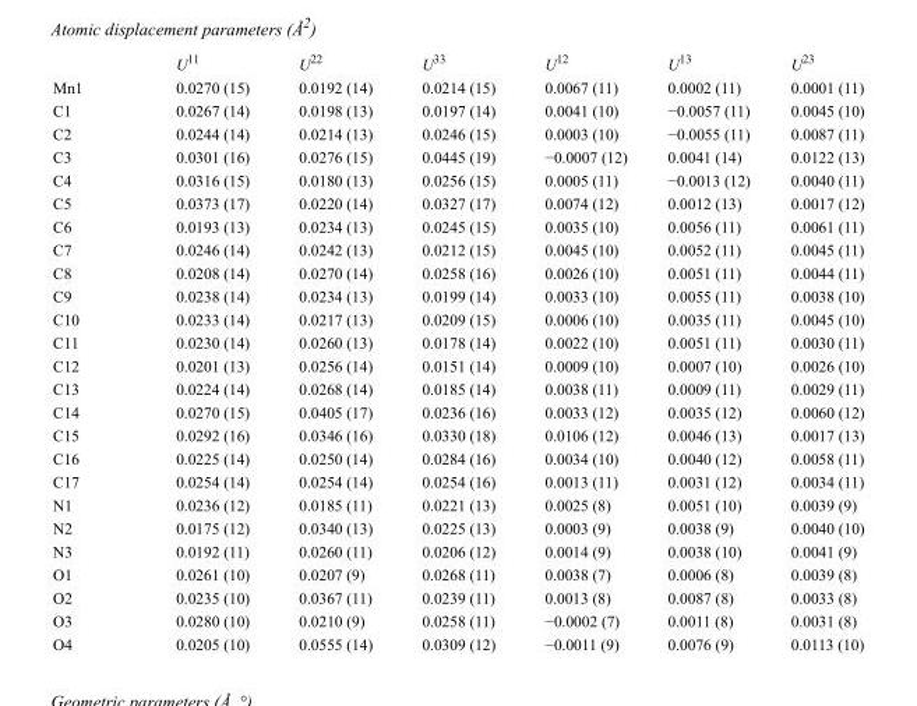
<table><thead><tr><td></td><td>U11</td><td>U22</td><td>U33</td><td>U12</td><td>U13</td><td>U23</td></tr></thead><tbody><tr><td>Mn1</td><td>0.0270 (15)</td><td>0.0192 (14)</td><td>0.0214 (15)</td><td>0.0067 (11)</td><td>0.0002 (11)</td><td>0.0001 (11)</td></tr><tr><td>C1</td><td>0.0267 (14)</td><td>0.0198 (13)</td><td>0.0197 (14)</td><td>0.0041 (10)</td><td>−0.0057 (11)</td><td>0.0045 (10)</td></tr><tr><td>C2</td><td>0.0244 (14)</td><td>0.0214 (13)</td><td>0.0246 (15)</td><td>0.0003 (10)</td><td>−0.0055 (11)</td><td>0.0087 (11)</td></tr><tr><td>C3</td><td>0.0301 (16)</td><td>0.0276 (15)</td><td>0.0445 (19)</td><td>−0.0007 (12)</td><td>0.0041 (14)</td><td>0.0122 (13)</td></tr><tr><td>C4</td><td>0.0316 (15)</td><td>0.0180 (13)</td><td>0.0256 (15)</td><td>0.0005 (11)</td><td>−0.0013 (12)</td><td>0.0040 (11)</td></tr><tr><td>C5</td><td>0.0373 (17)</td><td>0.0220 (14)</td><td>0.0327 (17)</td><td>0.0074 (12)</td><td>0.0012 (13)</td><td>0.0017 (12)</td></tr><tr><td>C6</td><td>0.0193 (13)</td><td>0.0234 (13)</td><td>0.0245 (15)</td><td>0.0035 (10)</td><td>0.0056 (11)</td><td>0.0061 (11)</td></tr><tr><td>C7</td><td>0.0246 (14)</td><td>0.0242 (13)</td><td>0.0212 (15)</td><td>0.0045 (10)</td><td>0.0052 (11)</td><td>0.0045 (11)</td></tr><tr><td>C8</td><td>0.0208 (14)</td><td>0.0270 (14)</td><td>0.0258 (16)</td><td>0.0026 (10)</td><td>0.0051 (11)</td><td>0.0044 (11)</td></tr><tr><td>C9</td><td>0.0238 (14)</td><td>0.0234 (13)</td><td>0.0199 (14)</td><td>0.0033 (10)</td><td>0.0055 (11)</td><td>0.0038 (10)</td></tr><tr><td>C10</td><td>0.0233 (14)</td><td>0.0217 (13)</td><td>0.0209 (15)</td><td>0.0006 (10)</td><td>0.0035 (11)</td><td>0.0045 (10)</td></tr><tr><td>C11</td><td>0.0230 (14)</td><td>0.0260 (13)</td><td>0.0178 (14)</td><td>0.0022 (10)</td><td>0.0051 (11)</td><td>0.0030 (11)</td></tr><tr><td>C12</td><td>0.0201 (13)</td><td>0.0256 (14)</td><td>0.0151 (14)</td><td>0.0009 (10)</td><td>0.0007 (10)</td><td>0.0026 (10)</td></tr><tr><td>C13</td><td>0.0224 (14)</td><td>0.0268 (14)</td><td>0.0185 (14)</td><td>0.0038 (11)</td><td>0.0009 (11)</td><td>0.0029 (11)</td></tr><tr><td>C14</td><td>0.0270 (15)</td><td>0.0405 (17)</td><td>0.0236 (16)</td><td>0.0033 (12)</td><td>0.0035 (12)</td><td>0.0060 (12)</td></tr><tr><td>C15</td><td>0.0292 (16)</td><td>0.0346 (16)</td><td>0.0330 (18)</td><td>0.0106 (12)</td><td>0.0046 (13)</td><td>0.0017 (13)</td></tr><tr><td>C16</td><td>0.0225 (14)</td><td>0.0250 (14)</td><td>0.0284 (16)</td><td>0.0034 (10)</td><td>0.0040 (12)</td><td>0.0058 (11)</td></tr><tr><td>C17</td><td>0.0254 (14)</td><td>0.0254 (14)</td><td>0.0254 (16)</td><td>0.0013 (11)</td><td>0.0031 (12)</td><td>0.0034 (11)</td></tr><tr><td>N1</td><td>0.0236 (12)</td><td>0.0185 (11)</td><td>0.0221 (13)</td><td>0.0025 (8)</td><td>0.0051 (10)</td><td>0.0039 (9)</td></tr><tr><td>N2</td><td>0.0175 (12)</td><td>0.0340 (13)</td><td>0.0225 (13)</td><td>0.0003 (9)</td><td>0.0038 (9)</td><td>0.0040 (10)</td></tr><tr><td>N3</td><td>0.0192 (11)</td><td>0.0260 (11)</td><td>0.0206 (12)</td><td>0.0014 (9)</td><td>0.0038 (10)</td><td>0.0041 (9)</td></tr><tr><td>O1</td><td>0.0261 (10)</td><td>0.0207 (9)</td><td>0.0268 (11)</td><td>0.0038 (7)</td><td>0.0006 (8)</td><td>0.0039 (8)</td></tr><tr><td>O2</td><td>0.0235 (10)</td><td>0.0367 (11)</td><td>0.0239 (11)</td><td>0.0013 (8)</td><td>0.0087 (8)</td><td>0.0033 (8)</td></tr><tr><td>O3</td><td>0.0280 (10)</td><td>0.0210 (9)</td><td>0.0258 (11)</td><td>−0.0002 (7)</td><td>0.0011 (8)</td><td>0.0031 (8)</td></tr><tr><td>O4</td><td>0.0205 (10)</td><td>0.0555 (14)</td><td>0.0309 (12)</td><td>−0.0011 (9)</td><td>0.0076 (9)</td><td>0.0113 (10)</td></tr></tbody></table>